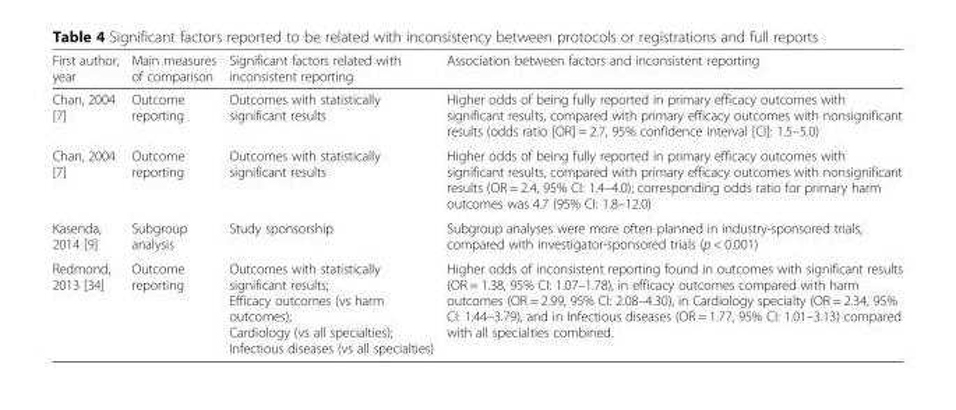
<table><thead><tr><td>First author, year</td><td>Main measures of comparison</td><td>Significant factors related with inconsistent reporting</td><td>Association between factors and inconsistent reporting</td></tr></thead><tbody><tr><td>Chan, 2004 [7]</td><td>Outcome reporting</td><td>Outcomes with statistically significant results</td><td>Higher odds of being fully reported in primary efficacy outcomes with significant results, compared with primary efficacy outcomes with nonsignificant results (odds ratio [OR] = 2.7, 95% confidence interval [CI]: 1.5–5.0)</td></tr><tr><td>Chan, 2004 [7]</td><td>Outcome reporting</td><td>Outcomes with statistically significant results</td><td>Higher odds of being fully reported in primary efficacy outcomes with significant results, compared with primary efficacy outcomes with nonsignificant results (OR = 2.4, 95% CI: 1.4–4.0); corresponding odds ratio for primary harm outcomes was 4.7 (95% CI: 1.8–12.0)</td></tr><tr><td>Kasenda, 2014 [9]</td><td>Subgroup analysis</td><td>Study sponsorship</td><td>Subgroup analyses were more often planned in industry-sponsored trials, compared with investigator-sponsored trials (p &lt; 0.001)</td></tr><tr><td>Redmond, 2013 [34]</td><td>Outcome reporting</td><td>Outcomes with statistically significant results; Efficacy outcomes (vs harm outcomes); Cardiology (vs all specialties); Infectious diseases (vs all specialties)</td><td>Higher odds of inconsistent reporting found in outcomes with significant results (OR = 1.38, 95% CI: 1.07–1.78), in efficacy outcomes compared with harm outcomes (OR = 2.99, 95% CI: 2.08–4.30), in Cardiology specialty (OR = 2.34, 95% CI: 1.44–3.79), and in Infectious diseases (OR = 1.77, 95% CI: 1.01–3.13) compared with all specialties combined.</td></tr></tbody></table>